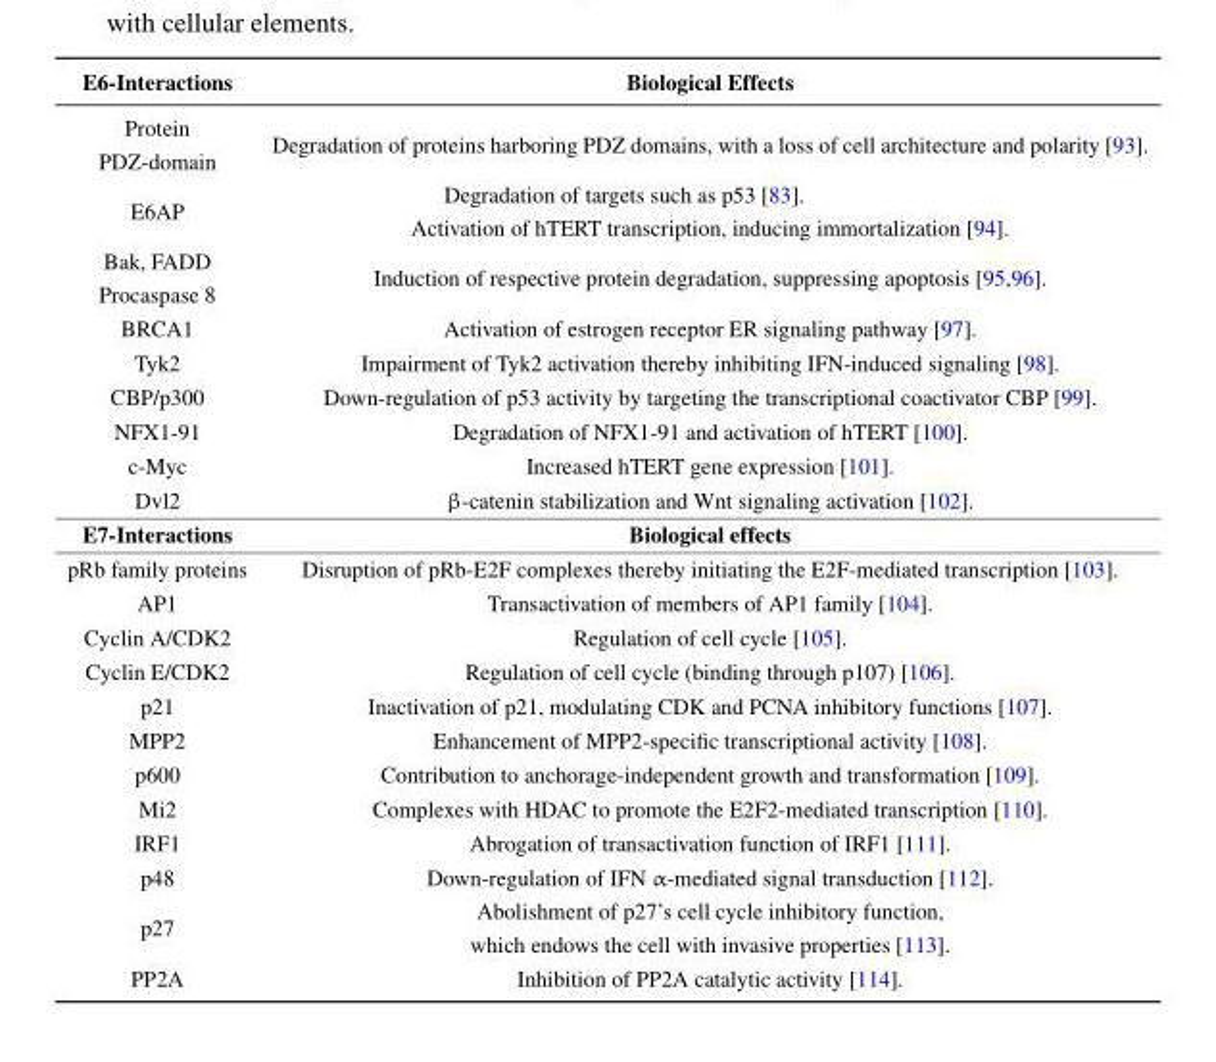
<table><thead><tr><td>E6-Interactions</td><td>Biological Effects</td></tr></thead><tbody><tr><td>Protein PDZ-domain</td><td>Degradation of proteins harboring PDZ domains, with a loss of cell architecture and polarity [93].</td></tr><tr><td>E6AP</td><td>Degradation of targets such as p53 [83]. Activation of hTERT transcription, inducing immortalization [94].</td></tr><tr><td>Bak, FADD Procaspase 8</td><td>Induction of respective protein degradation, suppressing apoptosis [95,96].</td></tr><tr><td>BRCA1</td><td>Activation of estrogen receptor ER signaling pathway [97].</td></tr><tr><td>Tyk2</td><td>Impairment of Tyk2 activation thereby inhibiting IFN-induced signaling [98].</td></tr><tr><td>CBP/p300</td><td>Down-regulation of p53 activity by targeting the transcriptional coactivator CBP [99].</td></tr><tr><td>NFX1-91</td><td>Degradation of NFX1-91 and activation of hTERT [100].</td></tr><tr><td>c-Myc</td><td>Increased hTERT gene expression [101].</td></tr><tr><td>Dvl2</td><td>β-catenin stabilization and Wnt signaling activation [102].</td></tr><tr><td>E7-Interactions</td><td>Biological effects</td></tr><tr><td>pRb family proteins</td><td>Disruption of pRb-E2F complexes thereby initiating the E2F-mediated transcription [103].</td></tr><tr><td>AP1</td><td>Transactivation of members of AP1 family [104].</td></tr><tr><td>Cyclin A/CDK2</td><td>Regulation of cell cycle [105].</td></tr><tr><td>Cyclin E/CDK2</td><td>Regulation of cell cycle (binding through p107) [106].</td></tr><tr><td>p21</td><td>Inactivation of p21, modulating CDK and PCNA inhibitory functions [107].</td></tr><tr><td>MPP2</td><td>Enhancement of MPP2-specific transcriptional activity [108].</td></tr><tr><td>p600</td><td>Contribution to anchorage-independent growth and transformation [109].</td></tr><tr><td>Mi2</td><td>Complexes with HDAC to promote the E2F2-mediated transcription [110].</td></tr><tr><td>IRF1</td><td>Abrogation of transactivation function of IRF1 [111].</td></tr><tr><td>p48</td><td>Down-regulation of IFN α-mediated signal transduction [112].</td></tr><tr><td>p27</td><td>Abolishment of p27’s cell cycle inhibitory function, which endows the cell with invasive properties [113].</td></tr><tr><td>PP2A</td><td>Inhibition of PP2A catalytic activity [114].</td></tr></tbody></table>